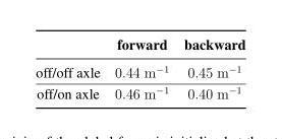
<table><thead><tr><td></td><td>forward</td><td>backward</td></tr></thead><tbody><tr><td>off/off axle</td><td>0.44 m<sup>−1</sup></td><td>0.45 m<sup>−1</sup></td></tr><tr><td>off/on axle</td><td>0.46 m<sup>−1</sup></td><td>0.40 m<sup>−1</sup></td></tr></tbody></table>